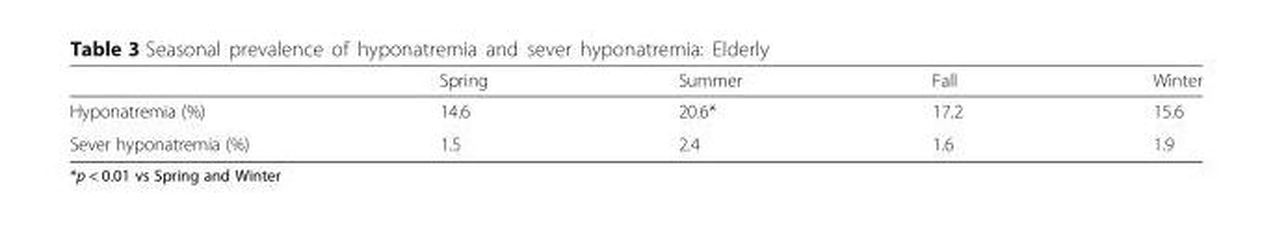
<table><thead><tr><td></td><td>Spring</td><td>Summer</td><td>Fall</td><td>Winter</td></tr></thead><tbody><tr><td>Hyponatremia (%)</td><td>14.6</td><td>20.6*</td><td>17.2</td><td>15.6</td></tr><tr><td>Sever hyponatremia (%)</td><td>1.5</td><td>2.4</td><td>1.6</td><td>1.9</td></tr></tbody></table>